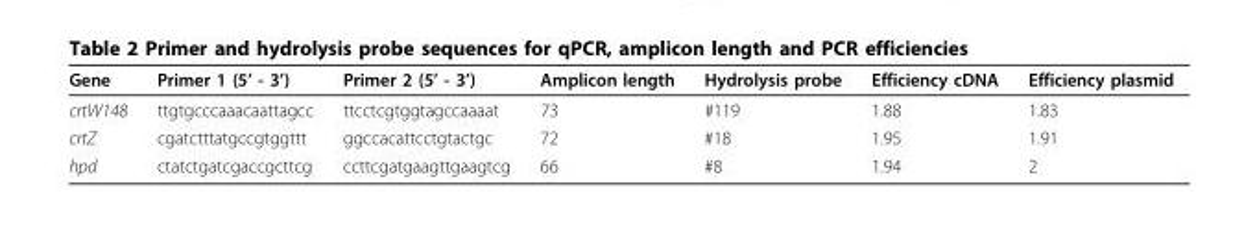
<table><thead><tr><td>Gene</td><td>Primer 1 (5’ - 3’)</td><td>Primer 2 (5’ - 3’)</td><td>Amplicon length</td><td>Hydrolysis probe</td><td>Efficiency cDNA</td><td>Efficiency plasmid</td></tr></thead><tbody><tr><td>crtW148</td><td>ttgtgcccaaacaattagcc</td><td>ttcctcgtggtagccaaaat</td><td>73</td><td>#119</td><td>1.88</td><td>1.83</td></tr><tr><td>crtZ</td><td>cgatctttatgccgtggttt</td><td>ggccacattcctgtactgc</td><td>72</td><td>#18</td><td>1.95</td><td>1.91</td></tr><tr><td>hpd</td><td>ctatctgatcgaccgcttcg</td><td>ccttcgatgaagttgaagtcg</td><td>66</td><td>#8</td><td>1.94</td><td>2</td></tr></tbody></table>